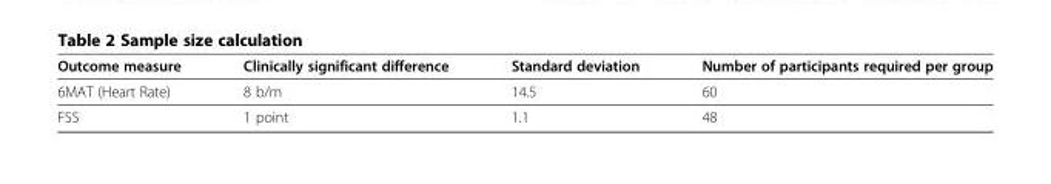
<table><thead><tr><td>Outcome measure</td><td>Clinically significant difference</td><td>Standard deviation</td><td>Number of participants required per group</td></tr></thead><tbody><tr><td>6MAT (Heart Rate)</td><td>8 b/m</td><td>14.5</td><td>60</td></tr><tr><td>FSS</td><td>1 point</td><td>1.1</td><td>48</td></tr></tbody></table>